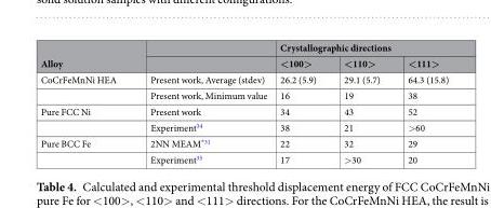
<table><thead><tr><td rowspan="2">Alloy</td><td rowspan="2"></td><td colspan="3">Crystallographic directions</td></tr><tr><td>&lt;100&gt;</td><td>&lt;110&gt;</td><td>&lt;111&gt;</td></tr></thead><tbody><tr><td rowspan="2">CoCrFeMnNi HEA</td><td>Present work, Average (stdev)</td><td>26.2 (5.9)</td><td>29.1 (5.7)</td><td>64.3 (15.8)</td></tr><tr><td>Present work, Minimum value</td><td>16</td><td>19</td><td>38</td></tr><tr><td rowspan="2">Pure FCC Ni</td><td>Present work</td><td>34</td><td>43</td><td>52</td></tr><tr><td>Experiment<sup>34</sup></td><td>38</td><td>21</td><td>&gt;60</td></tr><tr><td rowspan="2">Pure BCC Fe</td><td>2NN MEAM<sup>*31</sup></td><td>22</td><td>32</td><td>29</td></tr><tr><td>Experiment<sup>35</sup></td><td>17</td><td>&gt;30</td><td>20</td></tr></tbody></table>